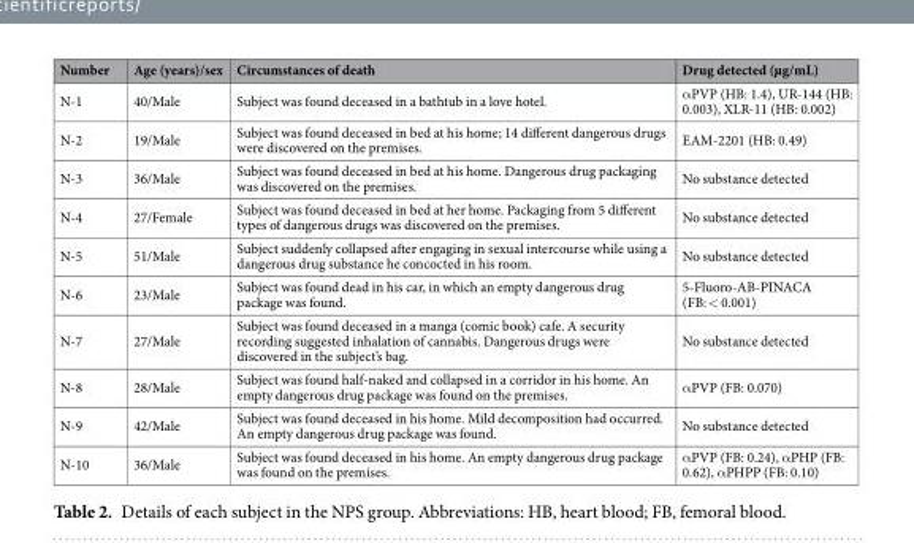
<table><thead><tr><td>Number</td><td>Age (years)/sex</td><td>Circumstances of death</td><td>Drug detected (µg/mL)</td></tr></thead><tbody><tr><td>N-1</td><td>40/Male</td><td>Subject was found deceased in a bathtub in a love hotel.</td><td>αPVP (HB: 1.4), UR-144 (HB: 0.003), XLR-11 (HB: 0.002)</td></tr><tr><td>N-2</td><td>19/Male</td><td>Subject was found deceased in bed at his home; 14 different dangerous drugs were discovered on the premises.</td><td>EAM-2201 (HB: 0.49)</td></tr><tr><td>N-3</td><td>36/Male</td><td>Subject was found deceased in bed at his home. Dangerous drug packaging was discovered on the premises.</td><td>No substance detected</td></tr><tr><td>N-4</td><td>27/Female</td><td>Subject was found deceased in bed at her home. Packaging from 5 different types of dangerous drugs was discovered on the premises.</td><td>No substance detected</td></tr><tr><td>N-5</td><td>51/Male</td><td>Subject suddenly collapsed after engaging in sexual intercourse while using a dangerous drug substance he concocted in his room.</td><td>No substance detected</td></tr><tr><td>N-6</td><td>23/Male</td><td>Subject was found dead in his car, in which an empty dangerous drug package was found.</td><td>5-Fluoro-AB-PINACA (FB: &lt; 0.001)</td></tr><tr><td>N-7</td><td>27/Male</td><td>Subject was found deceased in a manga (comic book) cafe. A security recording suggested inhalation of cannabis. Dangerous drugs were discovered in the subject’s bag.</td><td>No substance detected</td></tr><tr><td>N-8</td><td>28/Male</td><td>Subject was found half-naked and collapsed in a corridor in his home. An empty dangerous drug package was found on the premises.</td><td>αPVP (FB: 0.070)</td></tr><tr><td>N-9</td><td>42/Male</td><td>Subject was found deceased in his home. Mild decomposition had occurred. An empty dangerous drug package was found.</td><td>No substance detected</td></tr><tr><td>N-10</td><td>36/Male</td><td>Subject was found deceased in his home. An empty dangerous drug package was found on the premises.</td><td>αPVP (FB: 0.24), αPHP (FB: 0.62), αPHPP (FB: 0.10)</td></tr></tbody></table>